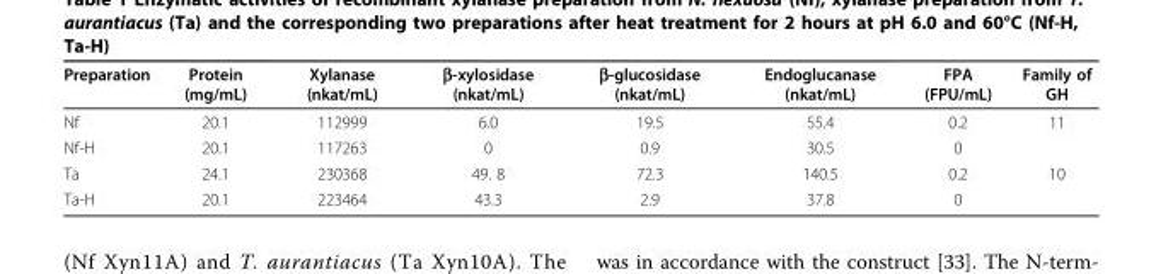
<table><thead><tr><td>Preparation</td><td>Protein (mg/mL)</td><td>Xylanase (nkat/mL)</td><td>β-xylosidase (nkat/mL)</td><td>β-glucosidase (nkat/mL)</td><td>Endoglucanase (nkat/mL)</td><td>FPA (FPU/mL)</td><td>Family of GH</td></tr></thead><tbody><tr><td>Nf</td><td>20.1</td><td>112999</td><td>6.0</td><td>19.5</td><td>55.4</td><td>0.2</td><td>11</td></tr><tr><td>Nf-H</td><td>20.1</td><td>117263</td><td>0</td><td>0.9</td><td>30.5</td><td>0</td><td></td></tr><tr><td>Ta</td><td>24.1</td><td>230368</td><td>49. 8</td><td>72.3</td><td>140.5</td><td>0.2</td><td>10</td></tr><tr><td>Ta-H</td><td>20.1</td><td>223464</td><td>43.3</td><td>2.9</td><td>37.8</td><td>0</td><td></td></tr></tbody></table>